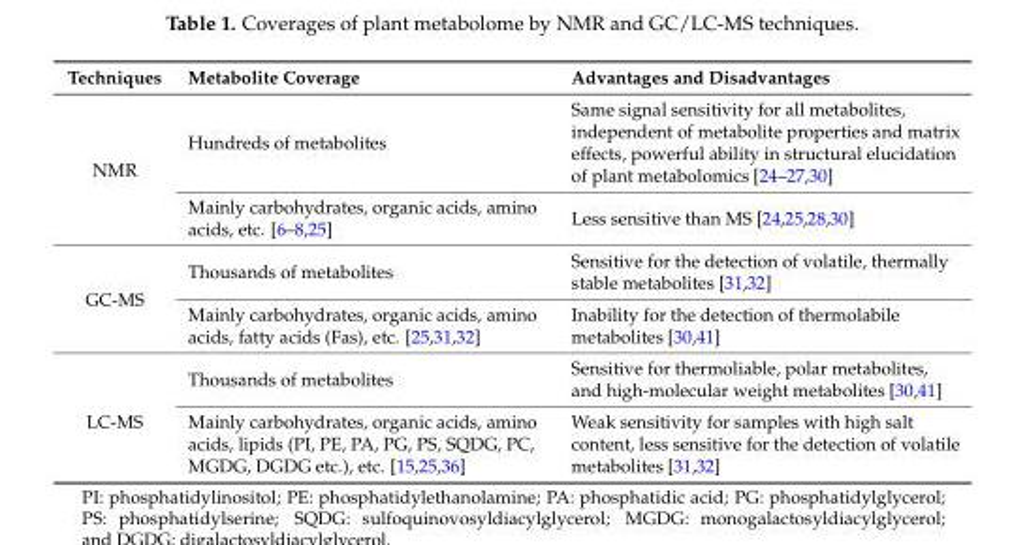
<table><thead><tr><td>Techniques</td><td>Metabolite Coverage</td><td>Advantages and Disadvantages</td></tr></thead><tbody><tr><td rowspan="2">NMR</td><td>Hundreds of metabolites</td><td>Same signal sensitivity for all metabolites, independent of metabolite properties and matrix effects, powerful ability in structural elucidation of plant metabolomics [24–27,30]</td></tr><tr><td>Mainly carbohydrates, organic acids, amino acids, etc. [6–8,25]</td><td>Less sensitive than MS [24,25,28,30]</td></tr><tr><td rowspan="2">GC-MS</td><td>Thousands of metabolites</td><td>Sensitive for the detection of volatile, thermally stable metabolites [31,32]</td></tr><tr><td>Mainly carbohydrates, organic acids, amino acids, fatty acids (Fas), etc. [25,31,32]</td><td>Inability for the detection of thermolabile metabolites [30,41]</td></tr><tr><td rowspan="2">LC-MS</td><td>Thousands of metabolites</td><td>Sensitive for thermoliable, polar metabolites, and high-molecular weight metabolites [30,41]</td></tr><tr><td>Mainly carbohydrates, organic acids, amino acids, lipids (PI, PE, PA, PG, PS, SQDG, PC, MGDG, DGDG etc.), etc. [15,25,36]</td><td>Weak sensitivity for samples with high salt content, less sensitive for the detection of volatile metabolites [31,32]</td></tr></tbody></table>